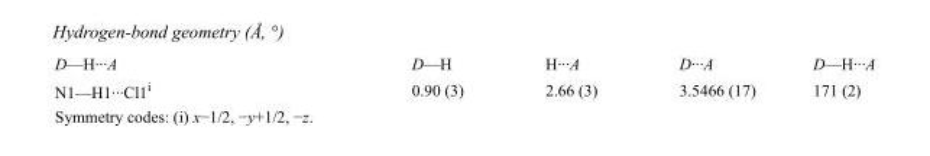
<table><tbody><tr><td>D—H···A</td><td>D—H</td><td>H···A</td><td>D···A</td><td>D—H···A</td></tr><tr><td>N1—H1···Cl1<sup>i</sup></td><td>0.90 (3)</td><td>2.66 (3)</td><td>3.5466 (17)</td><td>171 (2)</td></tr></tbody></table>